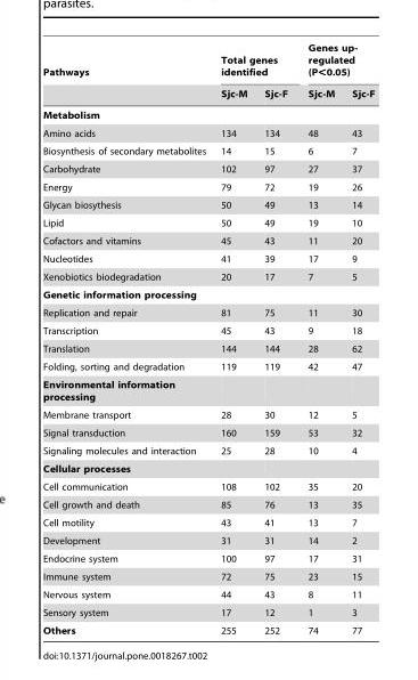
<table><thead><tr><td rowspan="2">Pathways</td><td colspan="2">Total genes identified</td><td colspan="2">Genes up- regulated (P&lt;0.05)</td></tr><tr><td>Sjc-M</td><td>Sjc-F</td><td>Sjc-M</td><td>Sjc-F</td></tr></thead><tbody><tr><td colspan="5">Metabolism</td></tr><tr><td>Amino acids</td><td>134</td><td>134</td><td>48</td><td>43</td></tr><tr><td>Biosynthesis of secondary metabolites</td><td>14</td><td>15</td><td>6</td><td>7</td></tr><tr><td>Carbohydrate</td><td>102</td><td>97</td><td>27</td><td>37</td></tr><tr><td>Energy</td><td>79</td><td>72</td><td>19</td><td>26</td></tr><tr><td>Glycan biosythesis</td><td>50</td><td>49</td><td>13</td><td>14</td></tr><tr><td>Lipid</td><td>50</td><td>49</td><td>19</td><td>10</td></tr><tr><td>Cofactors and vitamins</td><td>45</td><td>43</td><td>11</td><td>20</td></tr><tr><td>Nucleotides</td><td>41</td><td>39</td><td>17</td><td>9</td></tr><tr><td>Xenobiotics biodegradation</td><td>20</td><td>17</td><td>7</td><td>5</td></tr><tr><td colspan="5">Genetic information processing</td></tr><tr><td>Replication and repair</td><td>81</td><td>75</td><td>11</td><td>30</td></tr><tr><td>Transcription</td><td>45</td><td>43</td><td>9</td><td>18</td></tr><tr><td>Translation</td><td>144</td><td>144</td><td>28</td><td>62</td></tr><tr><td>Folding, sorting and degradation</td><td>119</td><td>119</td><td>42</td><td>47</td></tr><tr><td colspan="5">Environmental information processing</td></tr><tr><td>Membrane transport</td><td>28</td><td>30</td><td>12</td><td>5</td></tr><tr><td>Signal transduction</td><td>160</td><td>159</td><td>53</td><td>32</td></tr><tr><td>Signaling molecules and interaction</td><td>25</td><td>28</td><td>10</td><td>4</td></tr><tr><td colspan="5">Cellular processes</td></tr><tr><td>Cell communication</td><td>108</td><td>102</td><td>35</td><td>20</td></tr><tr><td>Cell growth and death</td><td>85</td><td>76</td><td>13</td><td>35</td></tr><tr><td>Cell motility</td><td>43</td><td>41</td><td>13</td><td>7</td></tr><tr><td>Development</td><td>31</td><td>31</td><td>14</td><td>2</td></tr><tr><td>Endocrine system</td><td>100</td><td>97</td><td>17</td><td>31</td></tr><tr><td>Immune system</td><td>72</td><td>75</td><td>23</td><td>15</td></tr><tr><td>Nervous system</td><td>44</td><td>43</td><td>8</td><td>11</td></tr><tr><td>Sensory system</td><td>17</td><td>12</td><td>1</td><td>3</td></tr><tr><td>Others</td><td>255</td><td>252</td><td>74</td><td>77</td></tr></tbody></table>